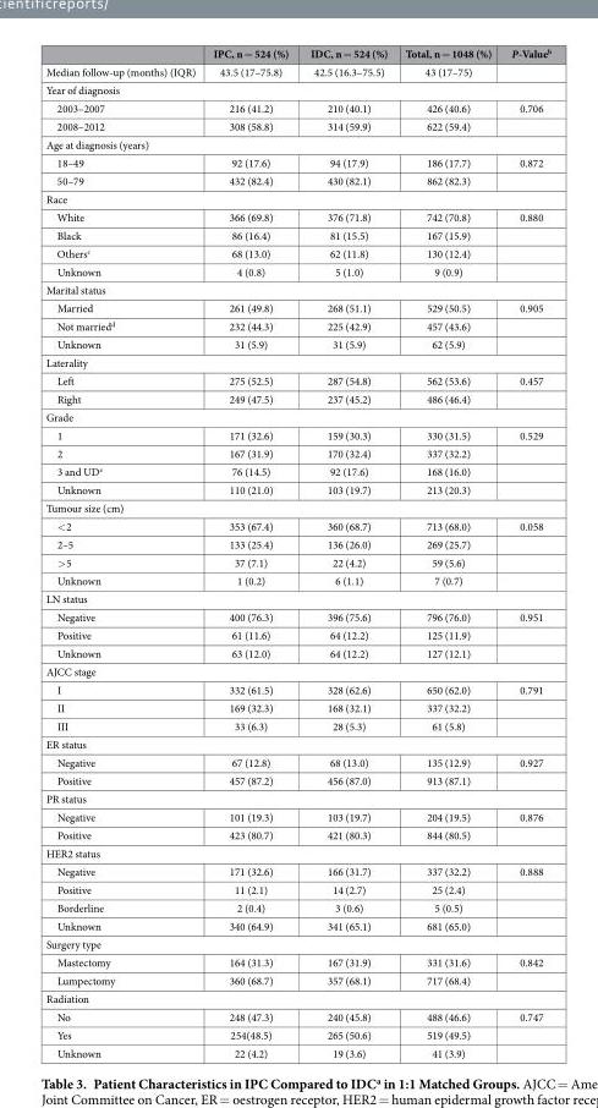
<table><thead><tr><td></td><td>IPC, n = 524 (%)</td><td>IDC, n = 524 (%)</td><td>Total, n = 1048 (%)</td><td>P-Value<sup>b</sup></td></tr></thead><tbody><tr><td>Median follow-up (months) (IQR)</td><td>43.5 (17–75.8)</td><td>42.5 (16.3–75.5)</td><td>43 (17–75)</td><td></td></tr><tr><td colspan="5">Year of diagnosis</td></tr><tr><td>2003–2007</td><td>216 (41.2)</td><td>210 (40.1)</td><td>426 (40.6)</td><td>0.706</td></tr><tr><td>2008–2012</td><td>308 (58.8)</td><td>314 (59.9)</td><td>622 (59.4)</td><td></td></tr><tr><td colspan="5">Age at diagnosis (years)</td></tr><tr><td>18–49</td><td>92 (17.6)</td><td>94 (17.9)</td><td>186 (17.7)</td><td>0.872</td></tr><tr><td>50–79</td><td>432 (82.4)</td><td>430 (82.1)</td><td>862 (82.3)</td><td></td></tr><tr><td colspan="5">Race</td></tr><tr><td>White</td><td>366 (69.8)</td><td>376 (71.8)</td><td>742 (70.8)</td><td>0.880</td></tr><tr><td>Black</td><td>86 (16.4)</td><td>81 (15.5)</td><td>167 (15.9)</td><td></td></tr><tr><td>Others<sup>c</sup></td><td>68 (13.0)</td><td>62 (11.8)</td><td>130 (12.4)</td><td></td></tr><tr><td>Unknown</td><td>4 (0.8)</td><td>5 (1.0)</td><td>9 (0.9)</td><td></td></tr><tr><td colspan="5">Marital status</td></tr><tr><td>Married</td><td>261 (49.8)</td><td>268 (51.1)</td><td>529 (50.5)</td><td>0.905</td></tr><tr><td>Not married<sup>d</sup></td><td>232 (44.3)</td><td>225 (42.9)</td><td>457 (43.6)</td><td></td></tr><tr><td>Unknown</td><td>31 (5.9)</td><td>31 (5.9)</td><td>62 (5.9)</td><td></td></tr><tr><td colspan="5">Laterality</td></tr><tr><td>Left</td><td>275 (52.5)</td><td>287 (54.8)</td><td>562 (53.6)</td><td>0.457</td></tr><tr><td>Right</td><td>249 (47.5)</td><td>237 (45.2)</td><td>486 (46.4)</td><td></td></tr><tr><td colspan="5">Grade</td></tr><tr><td>1</td><td>171 (32.6)</td><td>159 (30.3)</td><td>330 (31.5)</td><td>0.529</td></tr><tr><td>2</td><td>167 (31.9)</td><td>170 (32.4)</td><td>337 (32.2)</td><td></td></tr><tr><td>3 and UD<sup>e</sup></td><td>76 (14.5)</td><td>92 (17.6)</td><td>168 (16.0)</td><td></td></tr><tr><td>Unknown</td><td>110 (21.0)</td><td>103 (19.7)</td><td>213 (20.3)</td><td></td></tr><tr><td colspan="5">Tumour size (cm)</td></tr><tr><td>&lt; 2</td><td>353 (67.4)</td><td>360 (68.7)</td><td>713 (68.0)</td><td>0.058</td></tr><tr><td>2–5</td><td>133 (25.4)</td><td>136 (26.0)</td><td>269 (25.7)</td><td></td></tr><tr><td>&gt; 5</td><td>37 (7.1)</td><td>22 (4.2)</td><td>59 (5.6)</td><td></td></tr><tr><td>Unknown</td><td>1 (0.2)</td><td>6 (1.1)</td><td>7 (0.7)</td><td></td></tr><tr><td colspan="5">LN status</td></tr><tr><td>Negative</td><td>400 (76.3)</td><td>396 (75.6)</td><td>796 (76.0)</td><td>0.951</td></tr><tr><td>Positive</td><td>61 (11.6)</td><td>64 (12.2)</td><td>125 (11.9)</td><td></td></tr><tr><td>Unknown</td><td>63 (12.0)</td><td>64 (12.2)</td><td>127 (12.1)</td><td></td></tr><tr><td colspan="5">AJCC stage</td></tr><tr><td>I</td><td>332 (61.5)</td><td>328 (62.6)</td><td>650 (62.0)</td><td>0.791</td></tr><tr><td>II</td><td>169 (32.3)</td><td>168 (32.1)</td><td>337 (32.2)</td><td></td></tr><tr><td>III</td><td>33 (6.3)</td><td>28 (5.3)</td><td>61 (5.8)</td><td></td></tr><tr><td colspan="5">ER status</td></tr><tr><td>Negative</td><td>67 (12.8)</td><td>68 (13.0)</td><td>135 (12.9)</td><td>0.927</td></tr><tr><td>Positive</td><td>457 (87.2)</td><td>456 (87.0)</td><td>913 (87.1)</td><td></td></tr><tr><td colspan="5">PR status</td></tr><tr><td>Negative</td><td>101 (19.3)</td><td>103 (19.7)</td><td>204 (19.5)</td><td>0.876</td></tr><tr><td>Positive</td><td>423 (80.7)</td><td>421 (80.3)</td><td>844 (80.5)</td><td></td></tr><tr><td colspan="5">HER2 status</td></tr><tr><td>Negative</td><td>171 (32.6)</td><td>166 (31.7)</td><td>337 (32.2)</td><td>0.888</td></tr><tr><td>Positive</td><td>11 (2.1)</td><td>14 (2.7)</td><td>25 (2.4)</td><td></td></tr><tr><td>Borderline</td><td>2 (0.4)</td><td>3 (0.6)</td><td>5 (0.5)</td><td></td></tr><tr><td>Unknown</td><td>340 (64.9)</td><td>341 (65.1)</td><td>681 (65.0)</td><td></td></tr><tr><td colspan="5">Surgery type</td></tr><tr><td>Mastectomy</td><td>164 (31.3)</td><td>167 (31.9)</td><td>331 (31.6)</td><td>0.842</td></tr><tr><td>Lumpectomy</td><td>360 (68.7)</td><td>357 (68.1)</td><td>717 (68.4)</td><td></td></tr><tr><td colspan="5">Radiation</td></tr><tr><td>No</td><td>248 (47.3)</td><td>240 (45.8)</td><td>488 (46.6)</td><td>0.747</td></tr><tr><td>Yes</td><td>254(48.5)</td><td>265 (50.6)</td><td>519 (49.5)</td><td></td></tr><tr><td>Unknown</td><td>22 (4.2)</td><td>19 (3.6)</td><td>41 (3.9)</td><td></td></tr></tbody></table>